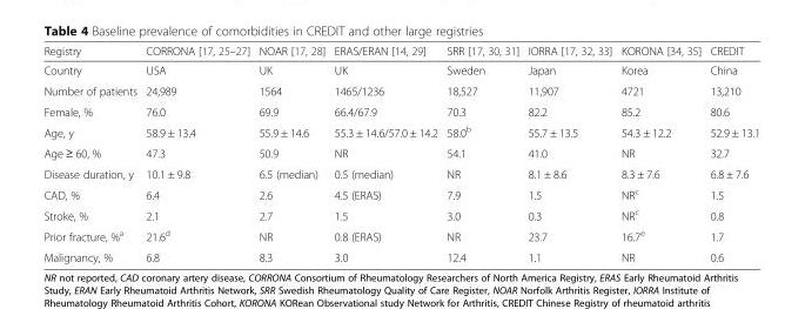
<table><thead><tr><td>Registry</td><td>CORRONA [17, 25–27]</td><td>NOAR [17, 28]</td><td>ERAS/ERAN [14, 29]</td><td>SRR [17, 30, 31]</td><td>IORRA [17, 32, 33]</td><td>KORONA [34, 35]</td><td>CREDIT</td></tr></thead><tbody><tr><td>Country</td><td>USA</td><td>UK</td><td>UK</td><td>Sweden</td><td>Japan</td><td>Korea</td><td>China</td></tr><tr><td>Number of patients</td><td>24,989</td><td>1564</td><td>1465/1236</td><td>18,527</td><td>11,907</td><td>4721</td><td>13,210</td></tr><tr><td>Female, %</td><td>76.0</td><td>69.9</td><td>66.4/67.9</td><td>70.3</td><td>82.2</td><td>85.2</td><td>80.6</td></tr><tr><td>Age, y</td><td>58.9 ± 13.4</td><td>55.9 ± 14.6</td><td>55.3 ± 14.6/57.0 ± 14.2</td><td>58.0<sup>b</sup></td><td>55.7 ± 13.5</td><td>54.3 ± 12.2</td><td>52.9 ± 13.1</td></tr><tr><td>Age ≥ 60, %</td><td>47.3</td><td>50.9</td><td>NR</td><td>54.1</td><td>41.0</td><td>NR</td><td>32.7</td></tr><tr><td>Disease duration, y</td><td>10.1 ± 9.8</td><td>6.5 (median)</td><td>0.5 (median)</td><td>NR</td><td>8.1 ± 8.6</td><td>8.3 ± 7.6</td><td>6.8 ± 7.6</td></tr><tr><td>CAD, %</td><td>6.4</td><td>2.6</td><td>4.5 (ERAS)</td><td>7.9</td><td>1.5</td><td>NR<sup>c</sup></td><td>1.5</td></tr><tr><td>Stroke, %</td><td>2.1</td><td>2.7</td><td>1.5</td><td>3.0</td><td>0.3</td><td>NR<sup>c</sup></td><td>0.8</td></tr><tr><td>Prior fracture, %<sup>a</sup></td><td>21.6<sup>d</sup></td><td>NR</td><td>0.8 (ERAS)</td><td>NR</td><td>23.7</td><td>16.7<sup>e</sup></td><td>1.7</td></tr><tr><td>Malignancy, %</td><td>6.8</td><td>8.3</td><td>3.0</td><td>12.4</td><td>1.1</td><td>NR</td><td>0.6</td></tr></tbody></table>